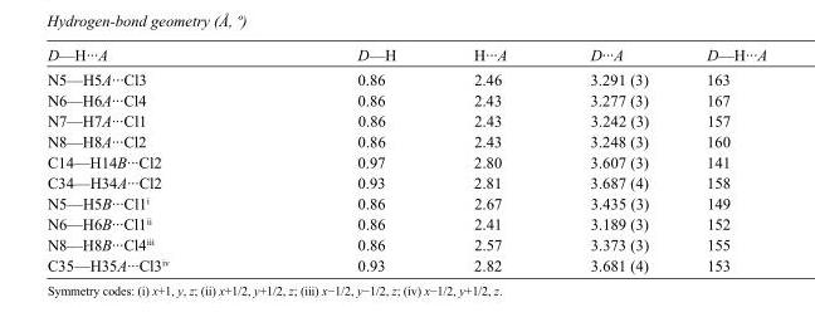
<table><tbody><tr><td>D—H···A</td><td>D—H</td><td>H···A</td><td>D···A</td><td>D—H···A</td></tr><tr><td>N5—H5A···Cl3</td><td>0.86</td><td>2.46</td><td>3.291 (3)</td><td>163</td></tr><tr><td>N6—H6A···Cl4</td><td>0.86</td><td>2.43</td><td>3.277 (3)</td><td>167</td></tr><tr><td>N7—H7A···Cl1</td><td>0.86</td><td>2.43</td><td>3.242 (3)</td><td>157</td></tr><tr><td>N8—H8A···Cl2</td><td>0.86</td><td>2.43</td><td>3.248 (3)</td><td>160</td></tr><tr><td>C14—H14B···Cl2</td><td>0.97</td><td>2.80</td><td>3.607 (3)</td><td>141</td></tr><tr><td>C34—H34A···Cl2</td><td>0.93</td><td>2.81</td><td>3.687 (4)</td><td>158</td></tr><tr><td>N5—H5B···Cl1<sup>i</sup></td><td>0.86</td><td>2.67</td><td>3.435 (3)</td><td>149</td></tr><tr><td>N6—H6B···Cl1<sup>ii</sup></td><td>0.86</td><td>2.41</td><td>3.189 (3)</td><td>152</td></tr><tr><td>N8—H8B···Cl4<sup>iii</sup></td><td>0.86</td><td>2.57</td><td>3.373 (3)</td><td>155</td></tr><tr><td>C35—H35A···Cl3<sup>iv</sup></td><td>0.93</td><td>2.82</td><td>3.681 (4)</td><td>153</td></tr></tbody></table>